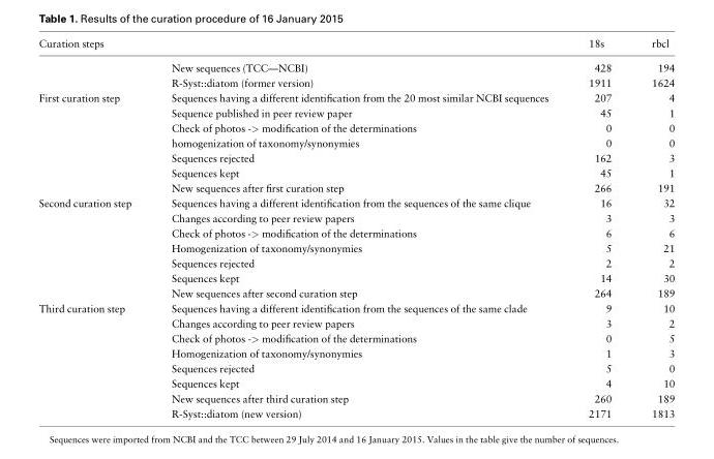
<table><thead><tr><td>Curation steps</td><td></td><td>18s</td><td>rbcl</td></tr></thead><tbody><tr><td></td><td>New sequences (TCC—NCBI)</td><td>428</td><td>194</td></tr><tr><td></td><td>R-Syst::diatom (former version)</td><td>1911</td><td>1624</td></tr><tr><td rowspan="7">First curation step</td><td>Sequences having a different identification from the 20 most similar NCBI sequences</td><td>207</td><td>4</td></tr><tr><td>Sequence published in peer review paper</td><td>45</td><td>1</td></tr><tr><td>Check of photos -&gt; modification of the determinations</td><td>0</td><td>0</td></tr><tr><td>homogenization of taxonomy/synonymies</td><td>0</td><td>0</td></tr><tr><td>Sequences rejected</td><td>162</td><td>3</td></tr><tr><td>Sequences kept</td><td>45</td><td>1</td></tr><tr><td>New sequences after first curation step</td><td>266</td><td>191</td></tr><tr><td rowspan="7">Second curation step</td><td>Sequences having a different identification from the sequences of the same clique</td><td>16</td><td>32</td></tr><tr><td>Changes according to peer review papers</td><td>3</td><td>3</td></tr><tr><td>Check of photos -&gt; modification of the determinations</td><td>6</td><td>6</td></tr><tr><td>Homogenization of taxonomy/synonymies</td><td>5</td><td>21</td></tr><tr><td>Sequences rejected</td><td>2</td><td>2</td></tr><tr><td>Sequences kept</td><td>14</td><td>30</td></tr><tr><td>New sequences after second curation step</td><td>264</td><td>189</td></tr><tr><td rowspan="8">Third curation step</td><td>Sequences having a different identification from the sequences of the same clade</td><td>9</td><td>10</td></tr><tr><td>Changes according to peer review papers</td><td>3</td><td>2</td></tr><tr><td>Check of photos -&gt; modification of the determinations</td><td>0</td><td>5</td></tr><tr><td>Homogenization of taxonomy/synonymies</td><td>1</td><td>3</td></tr><tr><td>Sequences rejected</td><td>5</td><td>0</td></tr><tr><td>Sequences kept</td><td>4</td><td>10</td></tr><tr><td>New sequences after third curation step</td><td>260</td><td>189</td></tr><tr><td>R-Syst::diatom (new version)</td><td>2171</td><td>1813</td></tr></tbody></table>